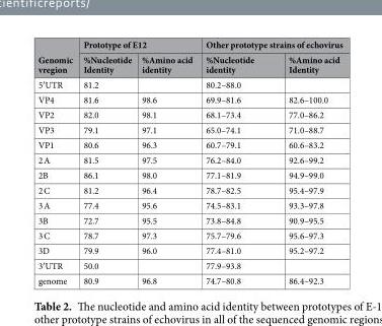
<table><thead><tr><td rowspan="2">Genomic vregion</td><td colspan="2">Prototype of E12</td><td colspan="2">Other prototype strains of echovirus</td></tr><tr><td>%Nucleotide Identity</td><td>%Amino acid identity</td><td>%Nucleotide identity</td><td>%Amino acid Identity</td></tr></thead><tbody><tr><td>5′UTR</td><td>81.2</td><td></td><td>80.2–88.0</td><td></td></tr><tr><td>VP4</td><td>81.6</td><td>98.6</td><td>69.9–81.6</td><td>82.6–100.0</td></tr><tr><td>VP2</td><td>82.0</td><td>98.1</td><td>68.1–73.4</td><td>77.0–86.2</td></tr><tr><td>VP3</td><td>79.1</td><td>97.1</td><td>65.0–74.1</td><td>71.0–88.7</td></tr><tr><td>VP1</td><td>80.6</td><td>96.3</td><td>60.7–79.1</td><td>60.6–83.2</td></tr><tr><td>2 A</td><td>81.5</td><td>97.5</td><td>76.2–84.0</td><td>92.6–99.2</td></tr><tr><td>2B</td><td>86.1</td><td>98.0</td><td>77.1–81.9</td><td>94.9–99.0</td></tr><tr><td>2 C</td><td>81.2</td><td>96.4</td><td>78.7–82.5</td><td>95.4–97.9</td></tr><tr><td>3 A</td><td>77.4</td><td>95.6</td><td>74.5–83.1</td><td>93.3–97.8</td></tr><tr><td>3B</td><td>72.7</td><td>95.5</td><td>73.8–84.8</td><td>90.9–95.5</td></tr><tr><td>3 C</td><td>78.7</td><td>97.3</td><td>75.7–79.6</td><td>95.6–97.3</td></tr><tr><td>3D</td><td>79.9</td><td>96.0</td><td>77.4–81.0</td><td>95.2–97.2</td></tr><tr><td>3′UTR</td><td>50.0</td><td></td><td>77.9–93.8</td><td></td></tr><tr><td>genome</td><td>80.9</td><td>96.8</td><td>74.7–80.8</td><td>86.4–92.3</td></tr></tbody></table>